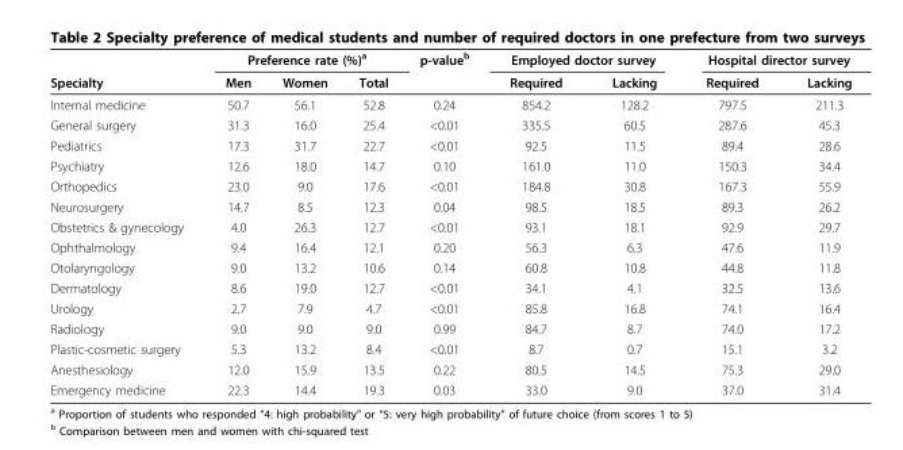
<table><thead><tr><td rowspan="2">Specialty</td><td colspan="3">Preference rate (%)<sup>a</sup></td><td rowspan="2">p-value<sup>b</sup></td><td colspan="2">Employed doctor survey</td><td colspan="2">Hospital director survey</td></tr><tr><td>Men</td><td>Women</td><td>Total</td><td>Required</td><td>Lacking</td><td>Required</td><td>Lacking</td></tr></thead><tbody><tr><td>Internal medicine</td><td>50.7</td><td>56.1</td><td>52.8</td><td>0.24</td><td>854.2</td><td>128.2</td><td>797.5</td><td>211.3</td></tr><tr><td>General surgery</td><td>31.3</td><td>16.0</td><td>25.4</td><td>&lt;0.01</td><td>335.5</td><td>60.5</td><td>287.6</td><td>45.3</td></tr><tr><td>Pediatrics</td><td>17.3</td><td>31.7</td><td>22.7</td><td>&lt;0.01</td><td>92.5</td><td>11.5</td><td>89.4</td><td>28.6</td></tr><tr><td>Psychiatry</td><td>12.6</td><td>18.0</td><td>14.7</td><td>0.10</td><td>161.0</td><td>11.0</td><td>150.3</td><td>34.4</td></tr><tr><td>Orthopedics</td><td>23.0</td><td>9.0</td><td>17.6</td><td>&lt;0.01</td><td>184.8</td><td>30.8</td><td>167.3</td><td>55.9</td></tr><tr><td>Neurosurgery</td><td>14.7</td><td>8.5</td><td>12.3</td><td>0.04</td><td>98.5</td><td>18.5</td><td>89.3</td><td>26.2</td></tr><tr><td>Obstetrics &amp; gynecology</td><td>4.0</td><td>26.3</td><td>12.7</td><td>&lt;0.01</td><td>93.1</td><td>18.1</td><td>92.9</td><td>29.7</td></tr><tr><td>Ophthalmology</td><td>9.4</td><td>16.4</td><td>12.1</td><td>0.20</td><td>56.3</td><td>6.3</td><td>47.6</td><td>11.9</td></tr><tr><td>Otolaryngology</td><td>9.0</td><td>13.2</td><td>10.6</td><td>0.14</td><td>60.8</td><td>10.8</td><td>44.8</td><td>11.8</td></tr><tr><td>Dermatology</td><td>8.6</td><td>19.0</td><td>12.7</td><td>&lt;0.01</td><td>34.1</td><td>4.1</td><td>32.5</td><td>13.6</td></tr><tr><td>Urology</td><td>2.7</td><td>7.9</td><td>4.7</td><td>&lt;0.01</td><td>85.8</td><td>16.8</td><td>74.1</td><td>16.4</td></tr><tr><td>Radiology</td><td>9.0</td><td>9.0</td><td>9.0</td><td>0.99</td><td>84.7</td><td>8.7</td><td>74.0</td><td>17.2</td></tr><tr><td>Plastic-cosmetic surgery</td><td>5.3</td><td>13.2</td><td>8.4</td><td>&lt;0.01</td><td>8.7</td><td>0.7</td><td>15.1</td><td>3.2</td></tr><tr><td>Anesthesiology</td><td>12.0</td><td>15.9</td><td>13.5</td><td>0.22</td><td>80.5</td><td>14.5</td><td>75.3</td><td>29.0</td></tr><tr><td>Emergency medicine</td><td>22.3</td><td>14.4</td><td>19.3</td><td>0.03</td><td>33.0</td><td>9.0</td><td>37.0</td><td>31.4</td></tr></tbody></table>